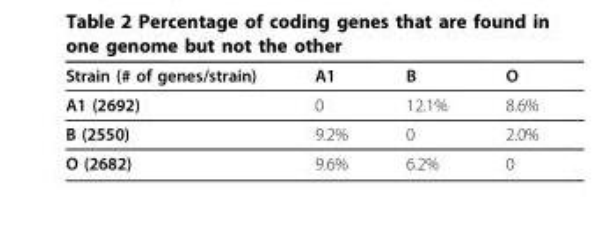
<table><thead><tr><td>Strain (# of genes/strain)</td><td>A1</td><td>B</td><td>O</td></tr></thead><tbody><tr><td>A1 (2692)</td><td>0</td><td>12.1%</td><td>8.6%</td></tr><tr><td>B (2550)</td><td>9.2%</td><td>0</td><td>2.0%</td></tr><tr><td>O (2682)</td><td>9.6%</td><td>6.2%</td><td>0</td></tr></tbody></table>